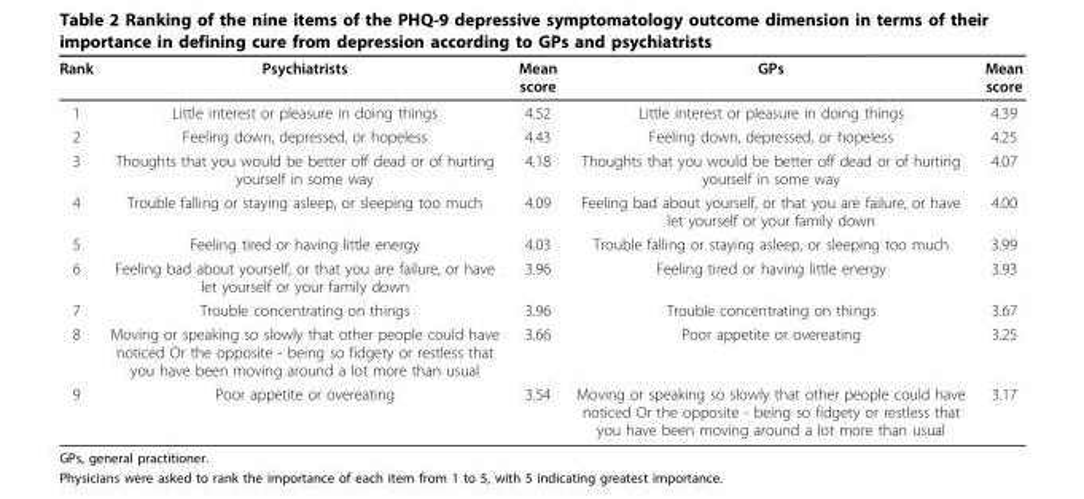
<table><thead><tr><td>Rank</td><td>Psychiatrists</td><td>Mean score</td><td>GPs</td><td>Mean score</td></tr></thead><tbody><tr><td>1</td><td>Little interest or pleasure in doing things</td><td>4.52</td><td>Little interest or pleasure in doing things</td><td>4.39</td></tr><tr><td>2</td><td>Feeling down, depressed, or hopeless</td><td>4.43</td><td>Feeling down, depressed, or hopeless</td><td>4.25</td></tr><tr><td>3</td><td>Thoughts that you would be better off dead or of hurting yourself in some way</td><td>4.18</td><td>Thoughts that you would be better off dead or of hurting yourself in some way</td><td>4.07</td></tr><tr><td>4</td><td>Trouble falling or staying asleep, or sleeping too much</td><td>4.09</td><td>Feeling bad about yourself, or that you are failure, or have let yourself or your family down</td><td>4.00</td></tr><tr><td>5</td><td>Feeling tired or having little energy</td><td>4.03</td><td>Trouble falling or staying asleep, or sleeping too much</td><td>3.99</td></tr><tr><td>6</td><td>Feeling bad about yourself, or that you are failure, or have let yourself or your family down</td><td>3.96</td><td>Feeling tired or having little energy</td><td>3.93</td></tr><tr><td>7</td><td>Trouble concentrating on things</td><td>3.96</td><td>Trouble concentrating on things</td><td>3.67</td></tr><tr><td>8</td><td>Moving or speaking so slowly that other people could have noticed Or the opposite - being so fidgety or restless that you have been moving around a lot more than usual</td><td>3.66</td><td>Poor appetite or overeating</td><td>3.25</td></tr><tr><td>9</td><td>Poor appetite or overeating</td><td>3.54</td><td>Moving or speaking so slowly that other people could have noticed Or the opposite - being so fidgety or restless that you have been moving around a lot more than usual</td><td>3.17</td></tr></tbody></table>